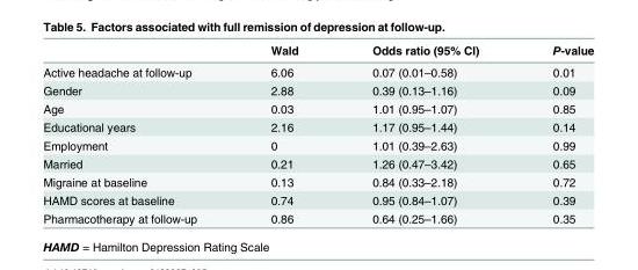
<table><thead><tr><td></td><td>Wald</td><td>Odds ratio (95% CI)</td><td>P-value</td></tr></thead><tbody><tr><td>Active headache at follow-up</td><td>6.06</td><td>0.07 (0.01–0.58)</td><td>0.01</td></tr><tr><td>Gender</td><td>2.88</td><td>0.39 (0.13–1.16)</td><td>0.09</td></tr><tr><td>Age</td><td>0.03</td><td>1.01 (0.95–1.07)</td><td>0.85</td></tr><tr><td>Educational years</td><td>2.16</td><td>1.17 (0.95–1.44)</td><td>0.14</td></tr><tr><td>Employment</td><td>0</td><td>1.01 (0.39–2.63)</td><td>0.99</td></tr><tr><td>Married</td><td>0.21</td><td>1.26 (0.47–3.42)</td><td>0.65</td></tr><tr><td>Migraine at baseline</td><td>0.13</td><td>0.84 (0.33–2.18)</td><td>0.72</td></tr><tr><td>HAMD scores at baseline</td><td>0.74</td><td>0.95 (0.84–1.07)</td><td>0.39</td></tr><tr><td>Pharmacotherapy at follow-up</td><td>0.86</td><td>0.64 (0.25–1.66)</td><td>0.35</td></tr></tbody></table>